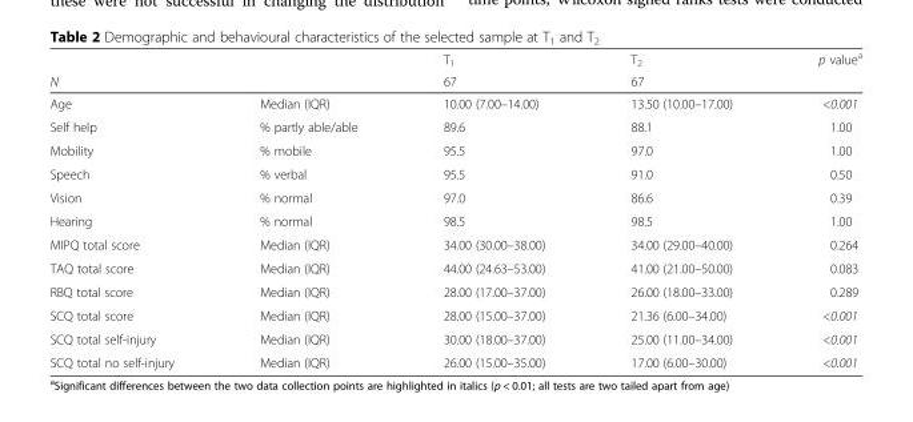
<table><thead><tr><td rowspan="2">N</td><td rowspan="2"></td><td rowspan="2">T<sub>1</sub> 67</td><td rowspan="2">T<sub>2</sub> 67</td><td rowspan="2">p value<sup>a</sup></td></tr><tr></tr></thead><tbody><tr><td>Age</td><td>Median (IQR)</td><td>10.00 (7.00–14.00)</td><td>13.50 (10.00–17.00)</td><td>&lt;0.001</td></tr><tr><td>Self help</td><td>% partly able/able</td><td>89.6</td><td>88.1</td><td>1.00</td></tr><tr><td>Mobility</td><td>% mobile</td><td>95.5</td><td>97.0</td><td>1.00</td></tr><tr><td>Speech</td><td>% verbal</td><td>95.5</td><td>91.0</td><td>0.50</td></tr><tr><td>Vision</td><td>% normal</td><td>97.0</td><td>86.6</td><td>0.39</td></tr><tr><td>Hearing</td><td>% normal</td><td>98.5</td><td>98.5</td><td>1.00</td></tr><tr><td>MIPQ total score</td><td>Median (IQR)</td><td>34.00 (30.00–38.00)</td><td>34.00 (29.00–40.00)</td><td>0.264</td></tr><tr><td>TAQ total score</td><td>Median (IQR)</td><td>44.00 (24.63–53.00)</td><td>41.00 (21.00–50.00)</td><td>0.083</td></tr><tr><td>RBQ total score</td><td>Median (IQR)</td><td>28.00 (17.00–37.00)</td><td>26.00 (18.00–33.00)</td><td>0.289</td></tr><tr><td>SCQ total score</td><td>Median (IQR)</td><td>28.00 (15.00–37.00)</td><td>21.36 (6.00–34.00)</td><td>&lt;0.001</td></tr><tr><td>SCQ total self-injury</td><td>Median (IQR)</td><td>30.00 (18.00–37.00)</td><td>25.00 (11.00–34.00)</td><td>&lt;0.001</td></tr><tr><td>SCQ total no self-injury</td><td>Median (IQR)</td><td>26.00 (15.00–35.00)</td><td>17.00 (6.00–30.00)</td><td>&lt;0.001</td></tr></tbody></table>